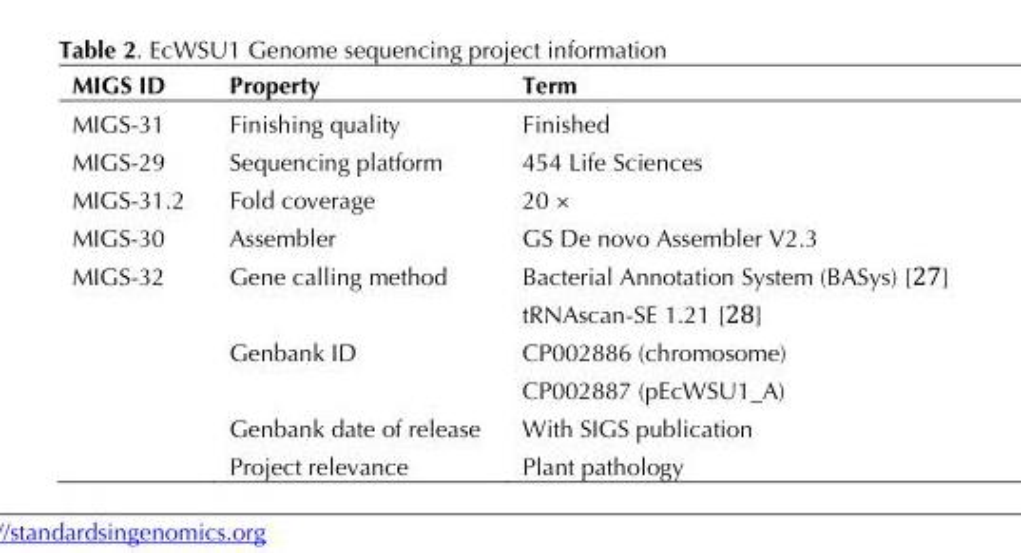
<table><thead><tr><td>MIGS ID</td><td>Property</td><td>Term</td></tr></thead><tbody><tr><td>MIGS-31</td><td>Finishing quality</td><td>Finished</td></tr><tr><td>MIGS-29</td><td>Sequencing platform</td><td>454 Life Sciences</td></tr><tr><td>MIGS-31.2</td><td>Fold coverage</td><td>20 ×</td></tr><tr><td>MIGS-30</td><td>Assembler</td><td>GS De novo Assembler V2.3</td></tr><tr><td rowspan="6">MIGS-32</td><td>Gene calling method</td><td>Bacterial Annotation System (BASys) [27]</td></tr><tr><td></td><td>tRNAscan-SE 1.21 [28]</td></tr><tr><td>Genbank ID</td><td>CP002886 (chromosome)</td></tr><tr><td></td><td>CP002887 (pEcWSU1_A)</td></tr><tr><td>Genbank date of release</td><td>With SIGS publication</td></tr><tr><td>Project relevance</td><td>Plant pathology</td></tr></tbody></table>